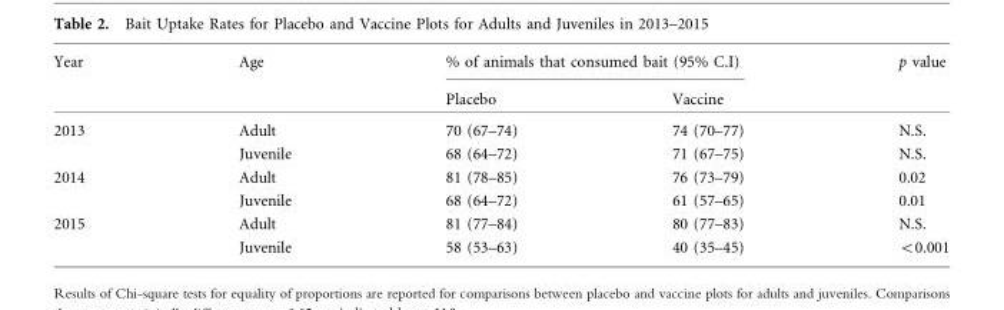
<table><thead><tr><td rowspan="2">Year</td><td rowspan="2">Age</td><td colspan="2">% of animals that consumed bait (95% C.I)</td><td rowspan="2">p value</td></tr><tr><td>Placebo</td><td>Vaccine</td></tr></thead><tbody><tr><td rowspan="2">2013</td><td>Adult</td><td>70 (67–74)</td><td>74 (70–77)</td><td>N.S.</td></tr><tr><td>Juvenile</td><td>68 (64–72)</td><td>71 (67–75)</td><td>N.S.</td></tr><tr><td rowspan="2">2014</td><td>Adult</td><td>81 (78–85)</td><td>76 (73–79)</td><td>0.02</td></tr><tr><td>Juvenile</td><td>68 (64–72)</td><td>61 (57–65)</td><td>0.01</td></tr><tr><td rowspan="2">2015</td><td>Adult</td><td>81 (77–84)</td><td>80 (77–83)</td><td>N.S.</td></tr><tr><td>Juvenile</td><td>58 (53–63)</td><td>40 (35–45)</td><td>&lt;0.001</td></tr></tbody></table>